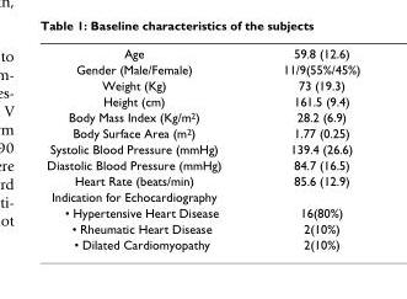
<table><tbody><tr><td>Age</td><td>59.8 (12.6)</td></tr><tr><td>Gender (Male/Female)</td><td>11/9(55%/45%)</td></tr><tr><td>Weight (Kg)</td><td>73 (19.3)</td></tr><tr><td>Height (cm)</td><td>161.5 (9.4)</td></tr><tr><td>Body Mass Index (Kg/m<sup>2</sup>)</td><td>28.2 (6.9)</td></tr><tr><td>Body Surface Area (m<sup>2</sup>)</td><td>1.77 (0.25)</td></tr><tr><td>Systolic Blood Pressure (mmHg)</td><td>139.4 (26.6)</td></tr><tr><td>Diastolic Blood Pressure (mmHg)</td><td>84.7 (16.5)</td></tr><tr><td>Heart Rate (beats/min)</td><td>85.6 (12.9)</td></tr><tr><td colspan="2">Indication for Echocardiography</td></tr><tr><td>• Hypertensive Heart Disease</td><td>16(80%)</td></tr><tr><td>• Rheumatic Heart Disease</td><td>2(10%)</td></tr><tr><td>• Dilated Cardiomyopathy</td><td>2(10%)</td></tr></tbody></table>